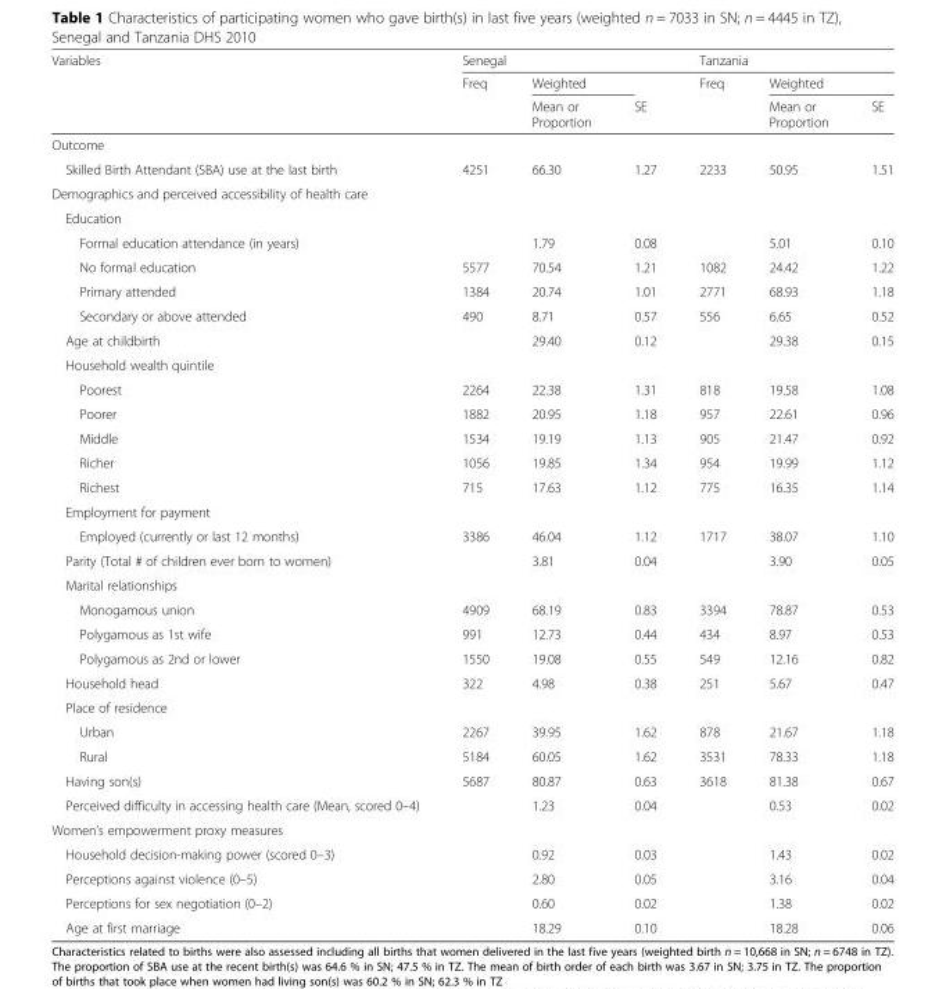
<table><thead><tr><td rowspan="3">Variables</td><td colspan="3">Senegal</td><td colspan="3">Tanzania</td></tr><tr><td rowspan="2">Freq</td><td rowspan="2">Weighted Mean or Proportion</td><td rowspan="2">SE</td><td rowspan="2">Freq</td><td colspan="2">Weighted</td></tr><tr><td>Mean or Proportion</td><td>SE</td></tr></thead><tbody><tr><td colspan="7">Outcome</td></tr><tr><td>Skilled Birth Attendant (SBA) use at the last birth</td><td>4251</td><td>66.30</td><td>1.27</td><td>2233</td><td>50.95</td><td>1.51</td></tr><tr><td colspan="7">Demographics and perceived accessibility of health care</td></tr><tr><td colspan="7">Education</td></tr><tr><td>Formal education attendance (in years)</td><td></td><td>1.79</td><td>0.08</td><td></td><td>5.01</td><td>0.10</td></tr><tr><td>No formal education</td><td>5577</td><td>70.54</td><td>1.21</td><td>1082</td><td>24.42</td><td>1.22</td></tr><tr><td>Primary attended</td><td>1384</td><td>20.74</td><td>1.01</td><td>2771</td><td>68.93</td><td>1.18</td></tr><tr><td>Secondary or above attended</td><td>490</td><td>8.71</td><td>0.57</td><td>556</td><td>6.65</td><td>0.52</td></tr><tr><td>Age at childbirth</td><td></td><td>29.40</td><td>0.12</td><td></td><td>29.38</td><td>0.15</td></tr><tr><td colspan="7">Household wealth quintile</td></tr><tr><td>Poorest</td><td>2264</td><td>22.38</td><td>1.31</td><td>818</td><td>19.58</td><td>1.08</td></tr><tr><td>Poorer</td><td>1882</td><td>20.95</td><td>1.18</td><td>957</td><td>22.61</td><td>0.96</td></tr><tr><td>Middle</td><td>1534</td><td>19.19</td><td>1.13</td><td>905</td><td>21.47</td><td>0.92</td></tr><tr><td>Richer</td><td>1056</td><td>19.85</td><td>1.34</td><td>954</td><td>19.99</td><td>1.12</td></tr><tr><td>Richest</td><td>715</td><td>17.63</td><td>1.12</td><td>775</td><td>16.35</td><td>1.14</td></tr><tr><td colspan="7">Employment for payment</td></tr><tr><td>Employed (currently or last 12 months)</td><td>3386</td><td>46.04</td><td>1.12</td><td>1717</td><td>38.07</td><td>1.10</td></tr><tr><td>Parity (Total # of children ever born to women)</td><td></td><td>3.81</td><td>0.04</td><td></td><td>3.90</td><td>0.05</td></tr><tr><td colspan="7">Marital relationships</td></tr><tr><td>Monogamous union</td><td>4909</td><td>68.19</td><td>0.83</td><td>3394</td><td>78.87</td><td>0.53</td></tr><tr><td>Polygamous as 1st wife</td><td>991</td><td>12.73</td><td>0.44</td><td>434</td><td>8.97</td><td>0.53</td></tr><tr><td>Polygamous as 2nd or lower</td><td>1550</td><td>19.08</td><td>0.55</td><td>549</td><td>12.16</td><td>0.82</td></tr><tr><td>Household head</td><td>322</td><td>4.98</td><td>0.38</td><td>251</td><td>5.67</td><td>0.47</td></tr><tr><td colspan="7">Place of residence</td></tr><tr><td>Urban</td><td>2267</td><td>39.95</td><td>1.62</td><td>878</td><td>21.67</td><td>1.18</td></tr><tr><td>Rural</td><td>5184</td><td>60.05</td><td>1.62</td><td>3531</td><td>78.33</td><td>1.18</td></tr><tr><td>Having son(s)</td><td>5687</td><td>80.87</td><td>0.63</td><td>3618</td><td>81.38</td><td>0.67</td></tr><tr><td>Perceived difficulty in accessing health care (Mean, scored 0–4)</td><td></td><td>1.23</td><td>0.04</td><td></td><td>0.53</td><td>0.02</td></tr><tr><td colspan="7">Women’s empowerment proxy measures</td></tr><tr><td>Household decision-making power (scored 0–3)</td><td></td><td>0.92</td><td>0.03</td><td></td><td>1.43</td><td>0.02</td></tr><tr><td>Perceptions against violence (0–5)</td><td></td><td>2.80</td><td>0.05</td><td></td><td>3.16</td><td>0.04</td></tr><tr><td>Perceptions for sex negotiation (0–2)</td><td></td><td>0.60</td><td>0.02</td><td></td><td>1.38</td><td>0.02</td></tr><tr><td>Age at first marriage</td><td></td><td>18.29</td><td>0.10</td><td></td><td>18.28</td><td>0.06</td></tr></tbody></table>